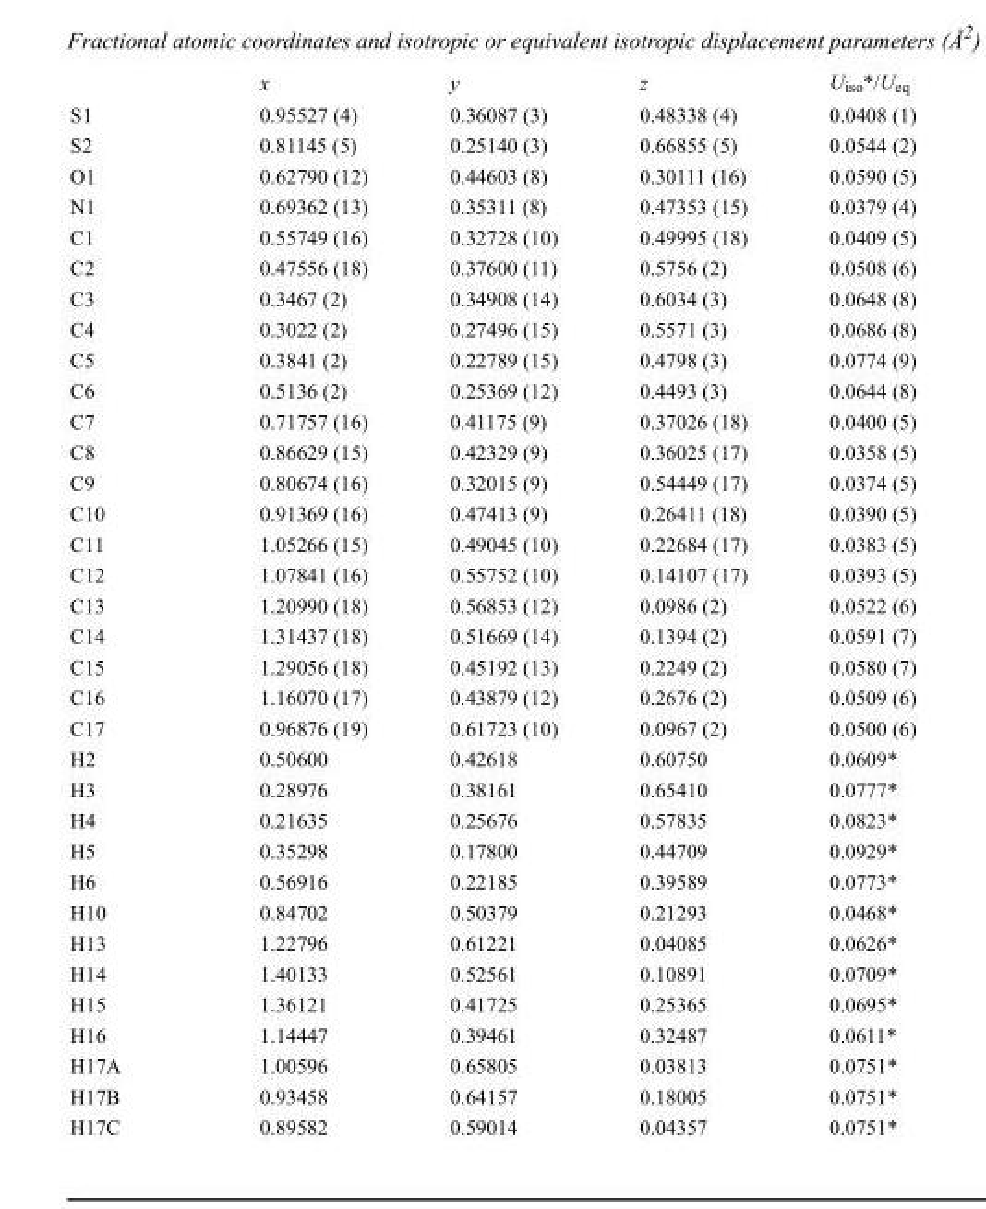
<table><thead><tr><td></td><td>x</td><td>y</td><td>z</td><td>U<sub>iso</sub>*/U<sub>eq</sub></td></tr></thead><tbody><tr><td>S1</td><td>0.95527 (4)</td><td>0.36087 (3)</td><td>0.48338 (4)</td><td>0.0408 (1)</td></tr><tr><td>S2</td><td>0.81145 (5)</td><td>0.25140 (3)</td><td>0.66855 (5)</td><td>0.0544 (2)</td></tr><tr><td>O1</td><td>0.62790 (12)</td><td>0.44603 (8)</td><td>0.30111 (16)</td><td>0.0590 (5)</td></tr><tr><td>N1</td><td>0.69362 (13)</td><td>0.35311 (8)</td><td>0.47353 (15)</td><td>0.0379 (4)</td></tr><tr><td>C1</td><td>0.55749 (16)</td><td>0.32728 (10)</td><td>0.49995 (18)</td><td>0.0409 (5)</td></tr><tr><td>C2</td><td>0.47556 (18)</td><td>0.37600 (11)</td><td>0.5756 (2)</td><td>0.0508 (6)</td></tr><tr><td>C3</td><td>0.3467 (2)</td><td>0.34908 (14)</td><td>0.6034 (3)</td><td>0.0648 (8)</td></tr><tr><td>C4</td><td>0.3022 (2)</td><td>0.27496 (15)</td><td>0.5571 (3)</td><td>0.0686 (8)</td></tr><tr><td>C5</td><td>0.3841 (2)</td><td>0.22789 (15)</td><td>0.4798 (3)</td><td>0.0774 (9)</td></tr><tr><td>C6</td><td>0.5136 (2)</td><td>0.25369 (12)</td><td>0.4493 (3)</td><td>0.0644 (8)</td></tr><tr><td>C7</td><td>0.71757 (16)</td><td>0.41175 (9)</td><td>0.37026 (18)</td><td>0.0400 (5)</td></tr><tr><td>C8</td><td>0.86629 (15)</td><td>0.42329 (9)</td><td>0.36025 (17)</td><td>0.0358 (5)</td></tr><tr><td>C9</td><td>0.80674 (16)</td><td>0.32015 (9)</td><td>0.54449 (17)</td><td>0.0374 (5)</td></tr><tr><td>C10</td><td>0.91369 (16)</td><td>0.47413 (9)</td><td>0.26411 (18)</td><td>0.0390 (5)</td></tr><tr><td>C11</td><td>1.05266 (15)</td><td>0.49045 (10)</td><td>0.22684 (17)</td><td>0.0383 (5)</td></tr><tr><td>C12</td><td>1.07841 (16)</td><td>0.55752 (10)</td><td>0.14107 (17)</td><td>0.0393 (5)</td></tr><tr><td>C13</td><td>1.20990 (18)</td><td>0.56853 (12)</td><td>0.0986 (2)</td><td>0.0522 (6)</td></tr><tr><td>C14</td><td>1.31437 (18)</td><td>0.51669 (14)</td><td>0.1394 (2)</td><td>0.0591 (7)</td></tr><tr><td>C15</td><td>1.29056 (18)</td><td>0.45192 (13)</td><td>0.2249 (2)</td><td>0.0580 (7)</td></tr><tr><td>C16</td><td>1.16070 (17)</td><td>0.43879 (12)</td><td>0.2676 (2)</td><td>0.0509 (6)</td></tr><tr><td>C17</td><td>0.96876 (19)</td><td>0.61723 (10)</td><td>0.0967 (2)</td><td>0.0500 (6)</td></tr><tr><td>H2</td><td>0.50600</td><td>0.42618</td><td>0.60750</td><td>0.0609*</td></tr><tr><td>H3</td><td>0.28976</td><td>0.38161</td><td>0.65410</td><td>0.0777*</td></tr><tr><td>H4</td><td>0.21635</td><td>0.25676</td><td>0.57835</td><td>0.0823*</td></tr><tr><td>H5</td><td>0.35298</td><td>0.17800</td><td>0.44709</td><td>0.0929*</td></tr><tr><td>H6</td><td>0.56916</td><td>0.22185</td><td>0.39589</td><td>0.0773*</td></tr><tr><td>H10</td><td>0.84702</td><td>0.50379</td><td>0.21293</td><td>0.0468*</td></tr><tr><td>H13</td><td>1.22796</td><td>0.61221</td><td>0.04085</td><td>0.0626*</td></tr><tr><td>H14</td><td>1.40133</td><td>0.52561</td><td>0.10891</td><td>0.0709*</td></tr><tr><td>H15</td><td>1.36121</td><td>0.41725</td><td>0.25365</td><td>0.0695*</td></tr><tr><td>H16</td><td>1.14447</td><td>0.39461</td><td>0.32487</td><td>0.0611*</td></tr><tr><td>H17A</td><td>1.00596</td><td>0.65805</td><td>0.03813</td><td>0.0751*</td></tr><tr><td>H17B</td><td>0.93458</td><td>0.64157</td><td>0.18005</td><td>0.0751*</td></tr><tr><td>H17C</td><td>0.89582</td><td>0.59014</td><td>0.04357</td><td>0.0751*</td></tr></tbody></table>